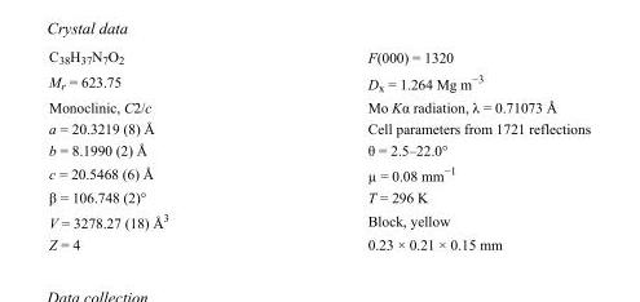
<table><tbody><tr><td>C<sub>38</sub>H<sub>37</sub>N<sub>7</sub>O<sub>2</sub></td><td>F(000) = 1320</td></tr><tr><td>M<sub>r</sub> = 623.75</td><td>D<sub>x</sub> = 1.264 Mg m<sup>−3</sup></td></tr><tr><td>Monoclinic, C2/c</td><td>Mo Kα radiation, λ = 0.71073 Å</td></tr><tr><td>a = 20.3219 (8) Å</td><td>Cell parameters from 1721 reflections</td></tr><tr><td>b = 8.1990 (2) Å</td><td>θ = 2.5–22.0°</td></tr><tr><td>c = 20.5468 (6) Å</td><td>µ = 0.08 mm<sup>−1</sup></td></tr><tr><td>β = 106.748 (2)°</td><td>T = 296 K</td></tr><tr><td>V = 3278.27 (18) Å<sup>3</sup></td><td>Block, yellow</td></tr><tr><td>Z = 4</td><td>0.23 × 0.21 × 0.15 mm</td></tr></tbody></table>